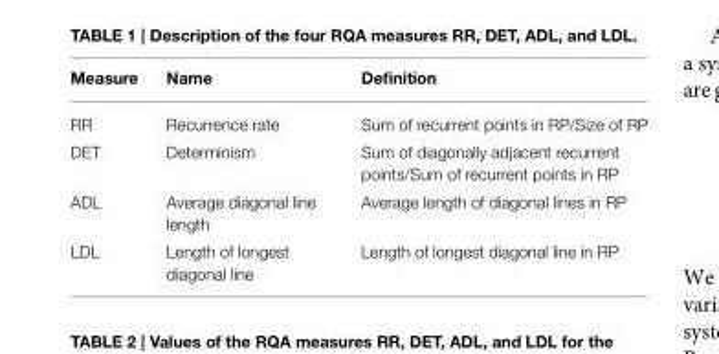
<table><thead><tr><td>Measure</td><td>Name</td><td>Definition</td></tr></thead><tbody><tr><td>RR</td><td>Recurrence rate</td><td>Sum of recurrent points in RP/Size of RP</td></tr><tr><td>DET</td><td>Determinism</td><td>Sum of diagonally adjacent recurrent points/Sum of recurrent points in RP</td></tr><tr><td>ADL</td><td>Average diagonal line length</td><td>Average length of diagonal lines in RP</td></tr><tr><td>LDL</td><td>Length of longest diagonal line</td><td>Length of longest diagonal line in RP</td></tr></tbody></table>